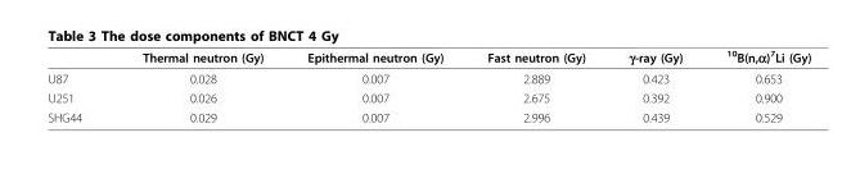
<table><thead><tr><td></td><td>Thermal neutron (Gy)</td><td>Epithermal neutron (Gy)</td><td>Fast neutron (Gy)</td><td>γ-ray (Gy)</td><td>10B(n,a)7Li (Gy)</td></tr></thead><tbody><tr><td>U87</td><td>0.028</td><td>0.007</td><td>2.889</td><td>0.423</td><td>0.653</td></tr><tr><td>U251</td><td>0.026</td><td>0.007</td><td>2.675</td><td>0.392</td><td>0.900</td></tr><tr><td>SHG44</td><td>0.029</td><td>0.007</td><td>2.996</td><td>0.439</td><td>0.529</td></tr></tbody></table>